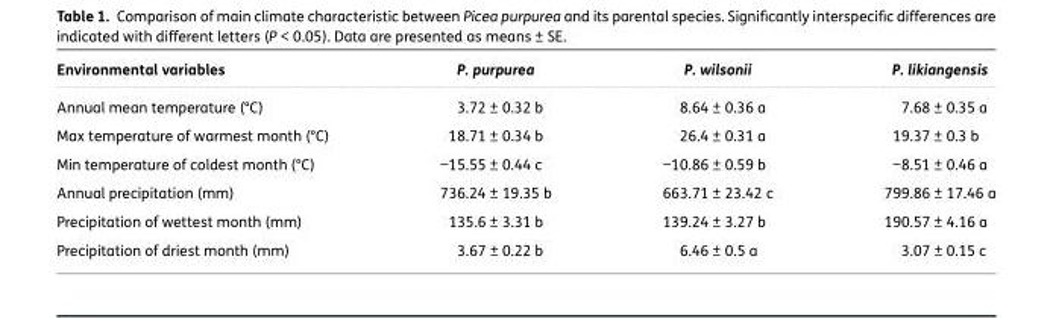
<table><thead><tr><td>Environmental variables</td><td>P. purpurea</td><td>P. wilsonii</td><td>P. likiangensis</td></tr></thead><tbody><tr><td>Annual mean temperature (°C)</td><td>3.72 ± 0.32 b</td><td>8.64 ± 0.36 a</td><td>7.68 ± 0.35 a</td></tr><tr><td>Max temperature of warmest month (°C)</td><td>18.71 ± 0.34 b</td><td>26.4 ± 0.31 a</td><td>19.37 ± 0.3 b</td></tr><tr><td>Min temperature of coldest month (°C)</td><td>−15.55 ± 0.44 c</td><td>−10.86 ± 0.59 b</td><td>−8.51 ± 0.46 a</td></tr><tr><td>Annual precipitation (mm)</td><td>736.24 ± 19.35 b</td><td>663.71 ± 23.42 c</td><td>799.86 ± 17.46 a</td></tr><tr><td>Precipitation of wettest month (mm)</td><td>135.6 ± 3.31 b</td><td>139.24 ± 3.27 b</td><td>190.57 ± 4.16 a</td></tr><tr><td>Precipitation of driest month (mm)</td><td>3.67 ± 0.22 b</td><td>6.46 ± 0.5 a</td><td>3.07 ± 0.15 c</td></tr></tbody></table>